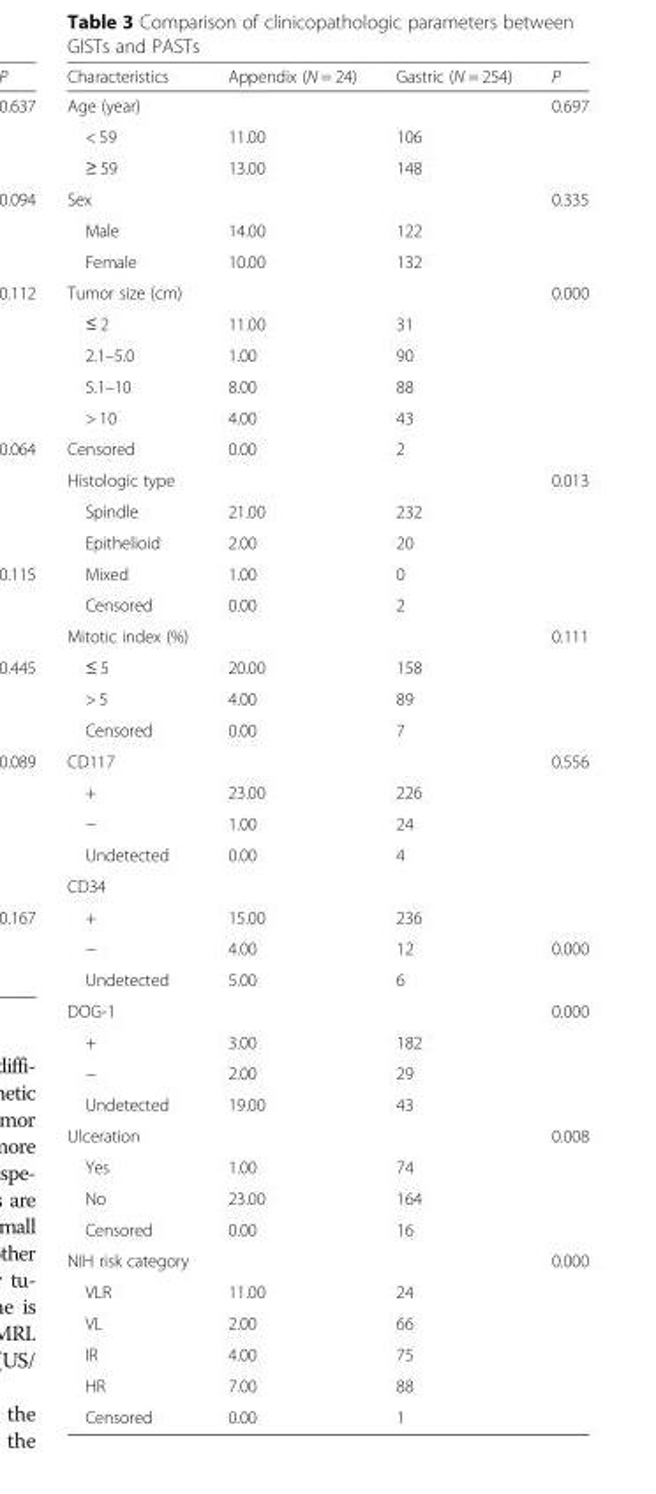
<table><thead><tr><td>Characteristics</td><td>Appendix (N = 24)</td><td>Gastric (N = 254)</td><td>P</td></tr></thead><tbody><tr><td>Age (year)</td><td></td><td></td><td>0.697</td></tr><tr><td>&lt; 59</td><td>11.00</td><td>106</td><td></td></tr><tr><td>≥ 59</td><td>13.00</td><td>148</td><td></td></tr><tr><td>Sex</td><td></td><td></td><td>0.335</td></tr><tr><td>Male</td><td>14.00</td><td>122</td><td></td></tr><tr><td>Female</td><td>10.00</td><td>132</td><td></td></tr><tr><td>Tumor size (cm)</td><td></td><td></td><td>0.000</td></tr><tr><td>≤ 2</td><td>11.00</td><td>31</td><td></td></tr><tr><td>2.1–5.0</td><td>1.00</td><td>90</td><td></td></tr><tr><td>5.1–10</td><td>8.00</td><td>88</td><td></td></tr><tr><td>&gt; 10</td><td>4.00</td><td>43</td><td></td></tr><tr><td>Censored</td><td>0.00</td><td>2</td><td></td></tr><tr><td>Histologic type</td><td></td><td></td><td>0.013</td></tr><tr><td>Spindle</td><td>21.00</td><td>232</td><td></td></tr><tr><td>Epithelioid</td><td>2.00</td><td>20</td><td></td></tr><tr><td>Mixed</td><td>1.00</td><td>0</td><td></td></tr><tr><td>Censored</td><td>0.00</td><td>2</td><td></td></tr><tr><td>Mitotic index (%)</td><td></td><td></td><td>0.111</td></tr><tr><td>≤ 5</td><td>20.00</td><td>158</td><td></td></tr><tr><td>&gt; 5</td><td>4.00</td><td>89</td><td></td></tr><tr><td>Censored</td><td>0.00</td><td>7</td><td></td></tr><tr><td>CD117</td><td></td><td></td><td>0.556</td></tr><tr><td>+</td><td>23.00</td><td>226</td><td></td></tr><tr><td>−</td><td>1.00</td><td>24</td><td></td></tr><tr><td>Undetected</td><td>0.00</td><td>4</td><td></td></tr><tr><td colspan="4">CD34</td></tr><tr><td>+</td><td>15.00</td><td>236</td><td></td></tr><tr><td>−</td><td>4.00</td><td>12</td><td>0.000</td></tr><tr><td>Undetected</td><td>5.00</td><td>6</td><td></td></tr><tr><td>DOG-1</td><td></td><td></td><td>0.000</td></tr><tr><td>+</td><td>3.00</td><td>182</td><td></td></tr><tr><td>−</td><td>2.00</td><td>29</td><td></td></tr><tr><td>Undetected</td><td>19.00</td><td>43</td><td></td></tr><tr><td>Ulceration</td><td></td><td></td><td>0.008</td></tr><tr><td>Yes</td><td>1.00</td><td>74</td><td></td></tr><tr><td>No</td><td>23.00</td><td>164</td><td></td></tr><tr><td>Censored</td><td>0.00</td><td>16</td><td></td></tr><tr><td>NIH risk category</td><td></td><td></td><td>0.000</td></tr><tr><td>VLR</td><td>11.00</td><td>24</td><td></td></tr><tr><td>VL</td><td>2.00</td><td>66</td><td></td></tr><tr><td>IR</td><td>4.00</td><td>75</td><td></td></tr><tr><td>HR</td><td>7.00</td><td>88</td><td></td></tr><tr><td>Censored</td><td>0.00</td><td>1</td><td></td></tr></tbody></table>